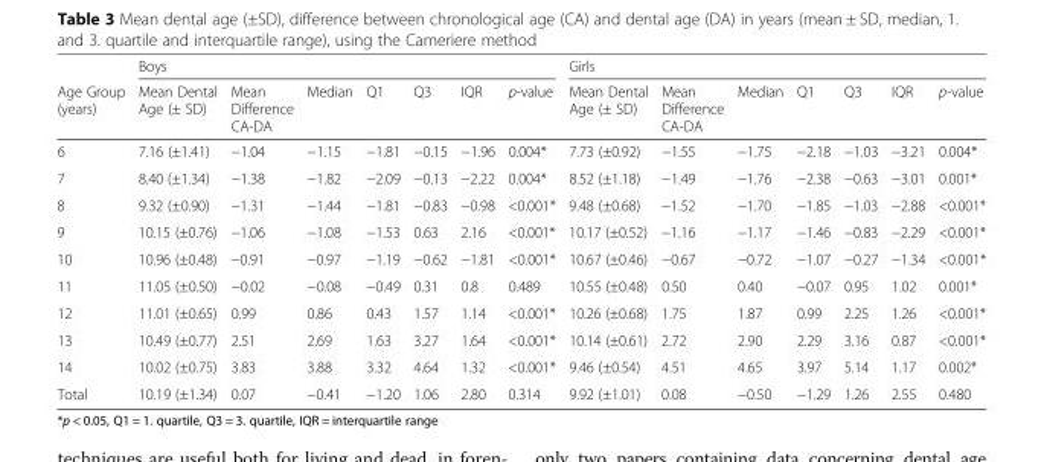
<table><thead><tr><td rowspan="2">Age Group (years)</td><td colspan="7">Boys</td><td colspan="7">Girls</td></tr><tr><td>Mean Dental Age (± SD)</td><td>Mean Difference CA-DA</td><td>Median</td><td>Q1</td><td>Q3</td><td>IQR</td><td>p-value</td><td>Mean Dental Age (± SD)</td><td>Mean Difference CA-DA</td><td>Median</td><td>Q1</td><td>Q3</td><td>IQR</td><td>p-value</td></tr></thead><tbody><tr><td>6</td><td>7.16 (±1.41)</td><td>−1.04</td><td>−1.15</td><td>−1.81</td><td>−0.15</td><td>−1.96</td><td>0.004*</td><td>7.73 (±0.92)</td><td>−1.55</td><td>−1.75</td><td>−2.18</td><td>−1.03</td><td>−3.21</td><td>0.004*</td></tr><tr><td>7</td><td>8.40 (±1.34)</td><td>−1.38</td><td>−1.82</td><td>−2.09</td><td>−0.13</td><td>−2.22</td><td>0.004*</td><td>8.52 (±1.18)</td><td>−1.49</td><td>−1.76</td><td>−2.38</td><td>−0.63</td><td>−3.01</td><td>0.001*</td></tr><tr><td>8</td><td>9.32 (±0.90)</td><td>−1.31</td><td>−1.44</td><td>−1.81</td><td>−0.83</td><td>−0.98</td><td>&lt;0.001*</td><td>9.48 (±0.68)</td><td>−1.52</td><td>−1.70</td><td>−1.85</td><td>−1.03</td><td>−2.88</td><td>&lt;0.001*</td></tr><tr><td>9</td><td>10.15 (±0.76)</td><td>−1.06</td><td>−1.08</td><td>−1.53</td><td>0.63</td><td>2.16</td><td>&lt;0.001*</td><td>10.17 (±0.52)</td><td>−1.16</td><td>−1.17</td><td>−1.46</td><td>−0.83</td><td>−2.29</td><td>&lt;0.001*</td></tr><tr><td>10</td><td>10.96 (±0.48)</td><td>−0.91</td><td>−0.97</td><td>−1.19</td><td>−0.62</td><td>−1.81</td><td>&lt;0.001*</td><td>10.67 (±0.46)</td><td>−0.67</td><td>−0.72</td><td>−1.07</td><td>−0.27</td><td>−1.34</td><td>&lt;0.001*</td></tr><tr><td>11</td><td>11.05 (±0.50)</td><td>−0.02</td><td>−0.08</td><td>−0.49</td><td>0.31</td><td>0.8</td><td>0.489</td><td>10.55 (±0.48)</td><td>0.50</td><td>0.40</td><td>−0.07</td><td>0.95</td><td>1.02</td><td>0.001*</td></tr><tr><td>12</td><td>11.01 (±0.65)</td><td>0.99</td><td>0.86</td><td>0.43</td><td>1.57</td><td>1.14</td><td>&lt;0.001*</td><td>10.26 (±0.68)</td><td>1.75</td><td>1.87</td><td>0.99</td><td>2.25</td><td>1.26</td><td>&lt;0.001*</td></tr><tr><td>13</td><td>10.49 (±0.77)</td><td>2.51</td><td>2.69</td><td>1.63</td><td>3.27</td><td>1.64</td><td>&lt;0.001*</td><td>10.14 (±0.61)</td><td>2.72</td><td>2.90</td><td>2.29</td><td>3.16</td><td>0.87</td><td>&lt;0.001*</td></tr><tr><td>14</td><td>10.02 (±0.75)</td><td>3.83</td><td>3.88</td><td>3.32</td><td>4.64</td><td>1.32</td><td>&lt;0.001*</td><td>9.46 (±0.54)</td><td>4.51</td><td>4.65</td><td>3.97</td><td>5.14</td><td>1.17</td><td>0.002*</td></tr><tr><td>Total</td><td>10.19 (±1.34)</td><td>0.07</td><td>−0.41</td><td>−1.20</td><td>1.06</td><td>2.80</td><td>0.314</td><td>9.92 (±1.01)</td><td>0.08</td><td>−0.50</td><td>−1.29</td><td>1.26</td><td>2.55</td><td>0.480</td></tr></tbody></table>